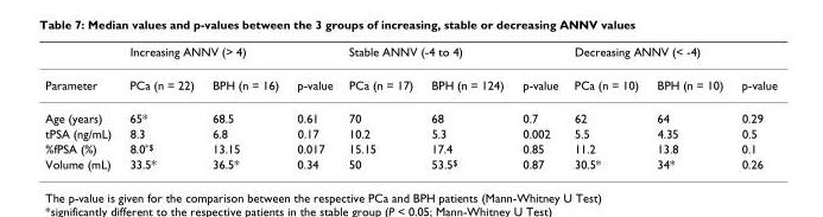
<table><thead><tr><td rowspan="2">Parameter</td><td colspan="3">Increasing ANNV (&gt; 4)</td><td colspan="3">Stable ANNV (-4 to 4)</td><td colspan="3">Decreasing ANNV (&lt; -4)</td></tr><tr><td>PCa (n = 22)</td><td>BPH (n = 16)</td><td>p-value</td><td>PCa (n = 17)</td><td>BPH (n = 124)</td><td>p-value</td><td>PCa (n = 10)</td><td>BPH (n = 10)</td><td>p-value</td></tr></thead><tbody><tr><td>Age (years)</td><td>65*</td><td>68.5</td><td>0.61</td><td>70</td><td>68</td><td>0.7</td><td>62</td><td>64</td><td>0.29</td></tr><tr><td>tPSA (ng/mL)</td><td>8.3</td><td>6.8</td><td>0.17</td><td>10.2</td><td>5.3</td><td>0.002</td><td>5.5</td><td>4.35</td><td>0.5</td></tr><tr><td>%fPSA (%)</td><td>8.0<sup>*$</sup></td><td>13.15</td><td>0.017</td><td>15.15</td><td>17.4</td><td>0.85</td><td>11.2</td><td>13.8</td><td>0.1</td></tr><tr><td>Volume (mL)</td><td>33.5*</td><td>36.5*</td><td>0.34</td><td>50</td><td>53.5<sup>$</sup></td><td>0.87</td><td>30.5*</td><td>34*</td><td>0.26</td></tr></tbody></table>